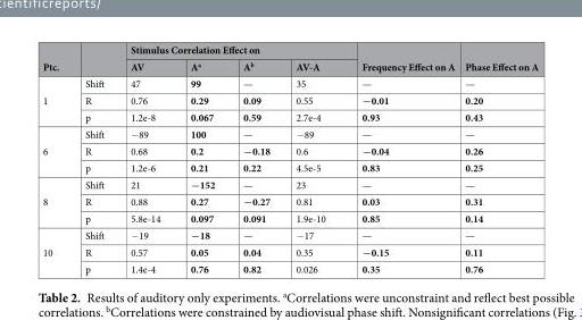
<table><thead><tr><td rowspan="2">Ptc.</td><td rowspan="2"></td><td colspan="4">Stimulus Correlation Effect on</td><td rowspan="2">Frequency Effect on A</td><td rowspan="2">Phase Effect on A</td></tr><tr><td>AV</td><td>A<sup>a</sup></td><td>A<sup>b</sup></td><td>AV-A</td></tr></thead><tbody><tr><td rowspan="3">1</td><td>Shift</td><td>47</td><td>99</td><td>—</td><td>35</td><td>—</td><td>—</td></tr><tr><td>R</td><td>0.76</td><td>0.29</td><td>0.09</td><td>0.55</td><td>−0.01</td><td>0.20</td></tr><tr><td>p</td><td>1.2e-8</td><td>0.067</td><td>0.59</td><td>2.7e-4</td><td>0.93</td><td>0.43</td></tr><tr><td rowspan="3">6</td><td>Shift</td><td>−89</td><td>100</td><td>—</td><td>−89</td><td>—</td><td>—</td></tr><tr><td>R</td><td>0.68</td><td>0.2</td><td>−0.18</td><td>0.6</td><td>−0.04</td><td>0.26</td></tr><tr><td>p</td><td>1.2e-6</td><td>0.21</td><td>0.22</td><td>4.5e-5</td><td>0.83</td><td>0.25</td></tr><tr><td rowspan="3">8</td><td>Shift</td><td>21</td><td>−152</td><td>—</td><td>23</td><td>—</td><td>—</td></tr><tr><td>R</td><td>0.88</td><td>0.27</td><td>−0.27</td><td>0.81</td><td>0.03</td><td>0.31</td></tr><tr><td>p</td><td>5.8e-14</td><td>0.097</td><td>0.091</td><td>1.9e-10</td><td>0.85</td><td>0.14</td></tr><tr><td rowspan="3">10</td><td>Shift</td><td>−19</td><td>−18</td><td>—</td><td>−17</td><td>—</td><td>—</td></tr><tr><td>R</td><td>0.57</td><td>0.05</td><td>0.04</td><td>0.35</td><td>−0.15</td><td>0.11</td></tr><tr><td>p</td><td>1.4e-4</td><td>0.76</td><td>0.82</td><td>0.026</td><td>0.35</td><td>0.76</td></tr></tbody></table>